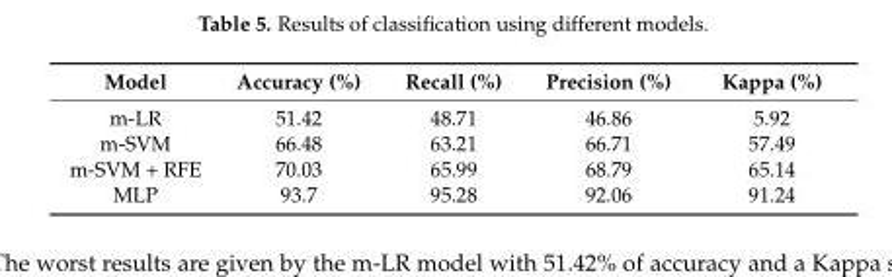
<table><thead><tr><td>Model</td><td>Accuracy (%)</td><td>Recall (%)</td><td>Precision (%)</td><td>Kappa (%)</td></tr></thead><tbody><tr><td>m-LR</td><td>51.42</td><td>48.71</td><td>46.86</td><td>5.92</td></tr><tr><td>m-SVM</td><td>66.48</td><td>63.21</td><td>66.71</td><td>57.49</td></tr><tr><td>m-SVM + RFE</td><td>70.03</td><td>65.99</td><td>68.79</td><td>65.14</td></tr><tr><td>MLP</td><td>93.7</td><td>95.28</td><td>92.06</td><td>91.24</td></tr></tbody></table>